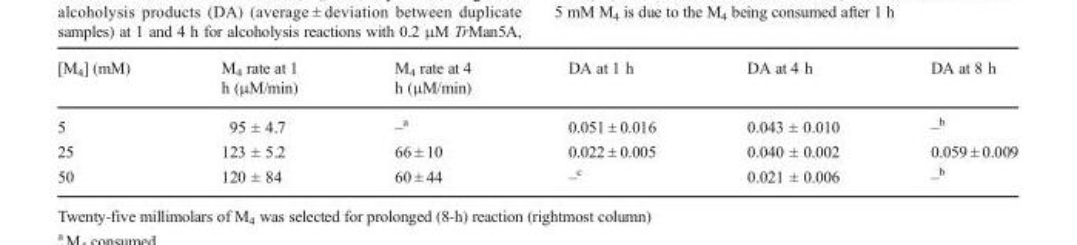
<table><thead><tr><td>[M<sub>4</sub>] (mM)</td><td>M<sub>4</sub> rate at 1 h (μM/min)</td><td>M<sub>4</sub> rate at 4 h (μM/min)</td><td>DA at 1 h</td><td>DA at 4 h</td><td>DA at 8 h</td></tr></thead><tbody><tr><td>5</td><td>95 ± 4.7</td><td>–<sup>a</sup></td><td>0.051 ± 0.016</td><td>0.043 ± 0.010</td><td>–<sup>b</sup></td></tr><tr><td>25</td><td>123 ± 5.2</td><td>66 ± 10</td><td>0.022 ± 0.005</td><td>0.040 ± 0.002</td><td>0.059 ± 0.009</td></tr><tr><td>50</td><td>120 ± 84</td><td>60 ± 44</td><td>–<sup>c</sup></td><td>0.021 ± 0.006</td><td>–<sup>b</sup></td></tr></tbody></table>